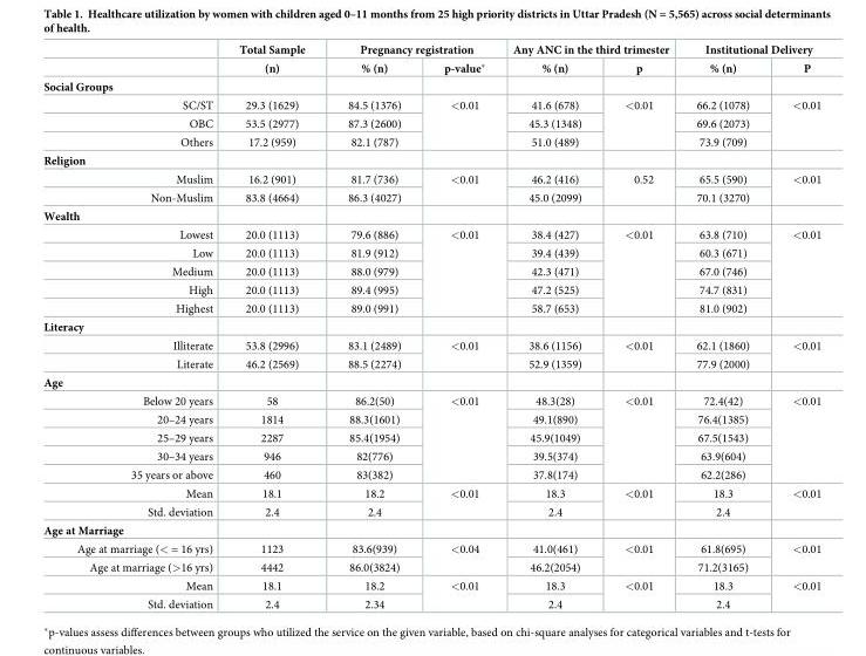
<table><thead><tr><td rowspan="2"></td><td rowspan="2">Total Sample (n)</td><td colspan="2">Pregnancy registration</td><td colspan="2">Any ANC in the third trimester</td><td colspan="2">Institutional Delivery</td></tr><tr><td>% (n)</td><td>p-value*</td><td>% (n)</td><td>p</td><td>% (n)</td><td>P</td></tr></thead><tbody><tr><td colspan="8">Social Groups</td></tr><tr><td>SC/ST</td><td>29.3 (1629)</td><td>84.5 (1376)</td><td rowspan="3">&lt;0.01</td><td>41.6 (678)</td><td rowspan="3">&lt;0.01</td><td>66.2 (1078)</td><td rowspan="3">&lt;0.01</td></tr><tr><td>OBC</td><td>53.5 (2977)</td><td>87.3 (2600)</td><td>45.3 (1348)</td><td>69.6 (2073)</td></tr><tr><td>Others</td><td>17.2 (959)</td><td>82.1 (787)</td><td>51.0 (489)</td><td>73.9 (709)</td></tr><tr><td colspan="8">Religion</td></tr><tr><td>Muslim</td><td>16.2 (901)</td><td>81.7 (736)</td><td rowspan="2">&lt;0.01</td><td>46.2 (416)</td><td rowspan="2">0.52</td><td>65.5 (590)</td><td rowspan="2">&lt;0.01</td></tr><tr><td>Non-Muslim</td><td>83.8 (4664)</td><td>86.3 (4027)</td><td>45.0 (2099)</td><td>70.1 (3270)</td></tr><tr><td colspan="8">Wealth</td></tr><tr><td>Lowest</td><td>20.0 (1113)</td><td>79.6 (886)</td><td rowspan="5">&lt;0.01</td><td>38.4 (427)</td><td rowspan="5">&lt;0.01</td><td>63.8 (710)</td><td rowspan="5">&lt;0.01</td></tr><tr><td>Low</td><td>20.0 (1113)</td><td>81.9 (912)</td><td>39.4 (439)</td><td>60.3 (671)</td></tr><tr><td>Medium</td><td>20.0 (1113)</td><td>88.0 (979)</td><td>42.3 (471)</td><td>67.0 (746)</td></tr><tr><td>High</td><td>20.0 (1113)</td><td>89.4 (995)</td><td>47.2 (525)</td><td>74.7 (831)</td></tr><tr><td>Highest</td><td>20.0 (1113)</td><td>89.0 (991)</td><td>58.7 (653)</td><td>81.0 (902)</td></tr><tr><td colspan="8">Literacy</td></tr><tr><td>Illiterate</td><td>53.8 (2996)</td><td>83.1 (2489)</td><td rowspan="2">&lt;0.01</td><td>38.6 (1156)</td><td rowspan="2">&lt;0.01</td><td>62.1 (1860)</td><td rowspan="2">&lt;0.01</td></tr><tr><td>Literate</td><td>46.2 (2569)</td><td>88.5 (2274)</td><td>52.9 (1359)</td><td>77.9 (2000)</td></tr><tr><td colspan="8">Age</td></tr><tr><td>Below 20 years</td><td>58</td><td>86.2(50)</td><td rowspan="5">&lt;0.01</td><td>48.3(28)</td><td rowspan="5">&lt;0.01</td><td>72.4(42)</td><td rowspan="5">&lt;0.01</td></tr><tr><td>20–24 years</td><td>1814</td><td>88.3(1601)</td><td>49.1(890)</td><td>76.4(1385)</td></tr><tr><td>25–29 years</td><td>2287</td><td>85.4(1954)</td><td>45.9(1049)</td><td>67.5(1543)</td></tr><tr><td>30–34 years</td><td>946</td><td>82(776)</td><td>39.5(374)</td><td>63.9(604)</td></tr><tr><td>35 years or above</td><td>460</td><td>83(382)</td><td>37.8(174)</td><td>62.2(286)</td></tr><tr><td>Mean</td><td>18.1</td><td>18.2</td><td rowspan="2">&lt;0.01</td><td>18.3</td><td rowspan="2">&lt;0.01</td><td>18.3</td><td rowspan="2">&lt;0.01</td></tr><tr><td>Std. deviation</td><td>2.4</td><td>2.4</td><td>2.4</td><td>2.4</td></tr><tr><td colspan="8">Age at Marriage</td></tr><tr><td>Age at marriage (&lt; = 16 yrs)</td><td>1123</td><td>83.6(939)</td><td rowspan="2">&lt;0.04</td><td>41.0(461)</td><td rowspan="2">&lt;0.01</td><td>61.8(695)</td><td rowspan="2">&lt;0.01</td></tr><tr><td>Age at marriage (&gt;16 yrs)</td><td>4442</td><td>86.0(3824)</td><td>46.2(2054)</td><td>71.2(3165)</td></tr><tr><td>Mean</td><td>18.1</td><td>18.2</td><td rowspan="2">&lt;0.01</td><td>18.3</td><td rowspan="2">&lt;0.01</td><td>18.3</td><td rowspan="2">&lt;0.01</td></tr><tr><td>Std. deviation</td><td>2.4</td><td>2.34</td><td>2.4</td><td>2.4</td></tr></tbody></table>